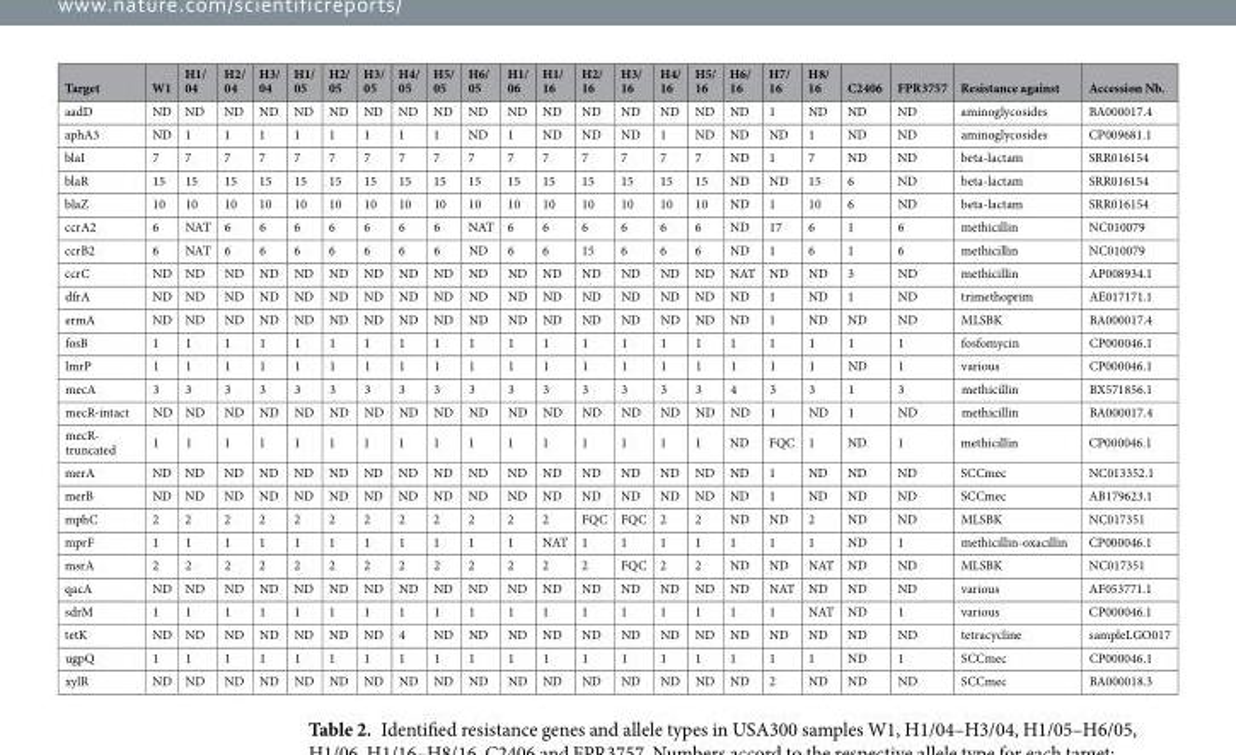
<table><thead><tr><td>Target</td><td>W1</td><td>H1/ 04</td><td>H2/ 04</td><td>H3/ 04</td><td>H1/ 05</td><td>H2/ 05</td><td>H3/ 05</td><td>H4/ 05</td><td>H5/ 05</td><td>H6/ 05</td><td>H1/ 06</td><td>H1/ 16</td><td>H2/ 16</td><td>H3/ 16</td><td>H4/ 16</td><td>H5/ 16</td><td>H6/ 16</td><td>H7/ 16</td><td>H8/ 16</td><td>C2406</td><td>FPR3757</td><td>Resistance against</td><td>Accession Nb.</td></tr></thead><tbody><tr><td>aadD</td><td>ND</td><td>ND</td><td>ND</td><td>ND</td><td>ND</td><td>ND</td><td>ND</td><td>ND</td><td>ND</td><td>ND</td><td>ND</td><td>ND</td><td>ND</td><td>ND</td><td>ND</td><td>ND</td><td>ND</td><td>1</td><td>ND</td><td>ND</td><td>ND</td><td>aminoglycosides</td><td>BA000017.4</td></tr><tr><td>aphA3</td><td>ND</td><td>1</td><td>1</td><td>1</td><td>1</td><td>1</td><td>1</td><td>1</td><td>1</td><td>ND</td><td>1</td><td>ND</td><td>ND</td><td>ND</td><td>1</td><td>ND</td><td>ND</td><td>ND</td><td>1</td><td>ND</td><td>ND</td><td>aminoglycosides</td><td>CP009681.1</td></tr><tr><td>blaI</td><td>7</td><td>7</td><td>7</td><td>7</td><td>7</td><td>7</td><td>7</td><td>7</td><td>7</td><td>7</td><td>7</td><td>7</td><td>7</td><td>7</td><td>7</td><td>7</td><td>ND</td><td>1</td><td>7</td><td>ND</td><td>ND</td><td>beta-lactam</td><td>SRR016154</td></tr><tr><td>blaR</td><td>15</td><td>15</td><td>15</td><td>15</td><td>15</td><td>15</td><td>15</td><td>15</td><td>15</td><td>15</td><td>15</td><td>15</td><td>15</td><td>15</td><td>15</td><td>15</td><td>ND</td><td>ND</td><td>15</td><td>6</td><td>ND</td><td>beta-lactam</td><td>SRR016154</td></tr><tr><td>blaZ</td><td>10</td><td>10</td><td>10</td><td>10</td><td>10</td><td>10</td><td>10</td><td>10</td><td>10</td><td>10</td><td>10</td><td>10</td><td>10</td><td>10</td><td>10</td><td>10</td><td>ND</td><td>1</td><td>10</td><td>6</td><td>ND</td><td>beta-lactam</td><td>SRR016154</td></tr><tr><td>ccrA2</td><td>6</td><td>NAT</td><td>6</td><td>6</td><td>6</td><td>6</td><td>6</td><td>6</td><td>6</td><td>NAT</td><td>6</td><td>6</td><td>6</td><td>6</td><td>6</td><td>6</td><td>ND</td><td>17</td><td>6</td><td>1</td><td>6</td><td>methicillin</td><td>NC010079</td></tr><tr><td>ccrB2</td><td>6</td><td>NAT</td><td>6</td><td>6</td><td>6</td><td>6</td><td>6</td><td>6</td><td>6</td><td>ND</td><td>6</td><td>6</td><td>15</td><td>6</td><td>6</td><td>6</td><td>ND</td><td>1</td><td>6</td><td>1</td><td>6</td><td>methicillin</td><td>NC010079</td></tr><tr><td>ccrC</td><td>ND</td><td>ND</td><td>ND</td><td>ND</td><td>ND</td><td>ND</td><td>ND</td><td>ND</td><td>ND</td><td>ND</td><td>ND</td><td>ND</td><td>ND</td><td>ND</td><td>ND</td><td>ND</td><td>NAT</td><td>ND</td><td>ND</td><td>3</td><td>ND</td><td>methicillin</td><td>AP008934.1</td></tr><tr><td>dfrA</td><td>ND</td><td>ND</td><td>ND</td><td>ND</td><td>ND</td><td>ND</td><td>ND</td><td>ND</td><td>ND</td><td>ND</td><td>ND</td><td>ND</td><td>ND</td><td>ND</td><td>ND</td><td>ND</td><td>ND</td><td>1</td><td>ND</td><td>1</td><td>ND</td><td>trimethoprim</td><td>AE017171.1</td></tr><tr><td>ermA</td><td>ND</td><td>ND</td><td>ND</td><td>ND</td><td>ND</td><td>ND</td><td>ND</td><td>ND</td><td>ND</td><td>ND</td><td>ND</td><td>ND</td><td>ND</td><td>ND</td><td>ND</td><td>ND</td><td>ND</td><td>1</td><td>ND</td><td>ND</td><td>ND</td><td>MLSBK</td><td>BA000017.4</td></tr><tr><td>fosB</td><td>1</td><td>1</td><td>1</td><td>1</td><td>1</td><td>1</td><td>1</td><td>1</td><td>1</td><td>1</td><td>1</td><td>1</td><td>1</td><td>1</td><td>1</td><td>1</td><td>1</td><td>1</td><td>1</td><td>1</td><td>1</td><td>fosfomycin</td><td>CP000046.1</td></tr><tr><td>lmrP</td><td>1</td><td>1</td><td>1</td><td>1</td><td>1</td><td>1</td><td>1</td><td>1</td><td>1</td><td>1</td><td>1</td><td>1</td><td>1</td><td>1</td><td>1</td><td>1</td><td>1</td><td>1</td><td>1</td><td>ND</td><td>1</td><td>various</td><td>CP000046.1</td></tr><tr><td>mecA</td><td>3</td><td>3</td><td>3</td><td>3</td><td>3</td><td>3</td><td>3</td><td>3</td><td>3</td><td>3</td><td>3</td><td>3</td><td>3</td><td>3</td><td>3</td><td>3</td><td>4</td><td>3</td><td>3</td><td>1</td><td>3</td><td>methicillin</td><td>BX571856.1</td></tr><tr><td>mecR-intact</td><td>ND</td><td>ND</td><td>ND</td><td>ND</td><td>ND</td><td>ND</td><td>ND</td><td>ND</td><td>ND</td><td>ND</td><td>ND</td><td>ND</td><td>ND</td><td>ND</td><td>ND</td><td>ND</td><td>ND</td><td>1</td><td>ND</td><td>1</td><td>ND</td><td>methicillin</td><td>BA000017.4</td></tr><tr><td>mecR- truncated</td><td>1</td><td>1</td><td>1</td><td>1</td><td>1</td><td>1</td><td>1</td><td>1</td><td>1</td><td>1</td><td>1</td><td>1</td><td>1</td><td>1</td><td>1</td><td>1</td><td>ND</td><td>FQC</td><td>1</td><td>ND</td><td>1</td><td>methicillin</td><td>CP000046.1</td></tr><tr><td>merA</td><td>ND</td><td>ND</td><td>ND</td><td>ND</td><td>ND</td><td>ND</td><td>ND</td><td>ND</td><td>ND</td><td>ND</td><td>ND</td><td>ND</td><td>ND</td><td>ND</td><td>ND</td><td>ND</td><td>ND</td><td>1</td><td>ND</td><td>ND</td><td>ND</td><td>SCCmec</td><td>NC013352.1</td></tr><tr><td>merB</td><td>ND</td><td>ND</td><td>ND</td><td>ND</td><td>ND</td><td>ND</td><td>ND</td><td>ND</td><td>ND</td><td>ND</td><td>ND</td><td>ND</td><td>ND</td><td>ND</td><td>ND</td><td>ND</td><td>ND</td><td>1</td><td>ND</td><td>ND</td><td>ND</td><td>SCCmec</td><td>AB179623.1</td></tr><tr><td>mphC</td><td>2</td><td>2</td><td>2</td><td>2</td><td>2</td><td>2</td><td>2</td><td>2</td><td>2</td><td>2</td><td>2</td><td>2</td><td>FQC</td><td>FQC</td><td>2</td><td>2</td><td>ND</td><td>ND</td><td>2</td><td>ND</td><td>ND</td><td>MLSBK</td><td>NC017351</td></tr><tr><td>mprF</td><td>1</td><td>1</td><td>1</td><td>1</td><td>1</td><td>1</td><td>1</td><td>1</td><td>1</td><td>1</td><td>1</td><td>NAT</td><td>1</td><td>1</td><td>1</td><td>1</td><td>1</td><td>1</td><td>1</td><td>ND</td><td>1</td><td>methicillin-oxacillin</td><td>CP000046.1</td></tr><tr><td>msrA</td><td>2</td><td>2</td><td>2</td><td>2</td><td>2</td><td>2</td><td>2</td><td>2</td><td>2</td><td>2</td><td>2</td><td>2</td><td>2</td><td>FQC</td><td>2</td><td>2</td><td>ND</td><td>ND</td><td>NAT</td><td>ND</td><td>ND</td><td>MLSBK</td><td>NC017351</td></tr><tr><td>qacA</td><td>ND</td><td>ND</td><td>ND</td><td>ND</td><td>ND</td><td>ND</td><td>ND</td><td>ND</td><td>ND</td><td>ND</td><td>ND</td><td>ND</td><td>ND</td><td>ND</td><td>ND</td><td>ND</td><td>ND</td><td>NAT</td><td>ND</td><td>ND</td><td>ND</td><td>various</td><td>AF053771.1</td></tr><tr><td>sdrM</td><td>1</td><td>1</td><td>1</td><td>1</td><td>1</td><td>1</td><td>1</td><td>1</td><td>1</td><td>1</td><td>1</td><td>1</td><td>1</td><td>1</td><td>1</td><td>1</td><td>1</td><td>1</td><td>NAT</td><td>ND</td><td>1</td><td>various</td><td>CP000046.1</td></tr><tr><td>tetK</td><td>ND</td><td>ND</td><td>ND</td><td>ND</td><td>ND</td><td>ND</td><td>ND</td><td>4</td><td>ND</td><td>ND</td><td>ND</td><td>ND</td><td>ND</td><td>ND</td><td>ND</td><td>ND</td><td>ND</td><td>ND</td><td>ND</td><td>ND</td><td>ND</td><td>tetracycline</td><td>sampleLGO017</td></tr><tr><td>ugpQ</td><td>1</td><td>1</td><td>1</td><td>1</td><td>1</td><td>1</td><td>1</td><td>1</td><td>1</td><td>1</td><td>1</td><td>1</td><td>1</td><td>1</td><td>1</td><td>1</td><td>1</td><td>1</td><td>1</td><td>ND</td><td>1</td><td>SCCmec</td><td>CP000046.1</td></tr><tr><td>xylR</td><td>ND</td><td>ND</td><td>ND</td><td>ND</td><td>ND</td><td>ND</td><td>ND</td><td>ND</td><td>ND</td><td>ND</td><td>ND</td><td>ND</td><td>ND</td><td>ND</td><td>ND</td><td>ND</td><td>ND</td><td>2</td><td>ND</td><td>ND</td><td>ND</td><td>SCCmec</td><td>BA000018.3</td></tr></tbody></table>